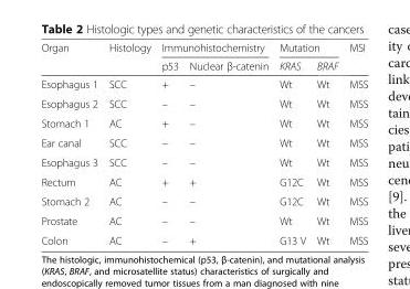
<table><thead><tr><td rowspan="2">Organ</td><td rowspan="2">Histology</td><td colspan="2">Immunohistochemistry</td><td colspan="2">Mutation</td><td rowspan="2">MSI</td></tr><tr><td>p53</td><td>Nuclear β-catenin</td><td>KRAS</td><td>BRAF</td></tr></thead><tbody><tr><td>Esophagus 1</td><td>SCC</td><td>+</td><td>–</td><td>Wt</td><td>Wt</td><td>MSS</td></tr><tr><td>Esophagus 2</td><td>SCC</td><td>–</td><td>–</td><td>Wt</td><td>Wt</td><td>MSS</td></tr><tr><td>Stomach 1</td><td>AC</td><td>+</td><td>–</td><td>Wt</td><td>Wt</td><td>MSS</td></tr><tr><td>Ear canal</td><td>SCC</td><td>–</td><td>–</td><td>Wt</td><td>Wt</td><td>MSS</td></tr><tr><td>Esophagus 3</td><td>SCC</td><td>–</td><td>–</td><td>Wt</td><td>Wt</td><td>MSS</td></tr><tr><td>Rectum</td><td>AC</td><td>+</td><td>+</td><td>G12C</td><td>Wt</td><td>MSS</td></tr><tr><td>Stomach 2</td><td>AC</td><td>–</td><td>–</td><td>G12C</td><td>Wt</td><td>MSS</td></tr><tr><td>Prostate</td><td>AC</td><td>–</td><td>–</td><td>Wt</td><td>Wt</td><td>MSS</td></tr><tr><td>Colon</td><td>AC</td><td>–</td><td>+</td><td>G13 V</td><td>Wt</td><td>MSS</td></tr></tbody></table>